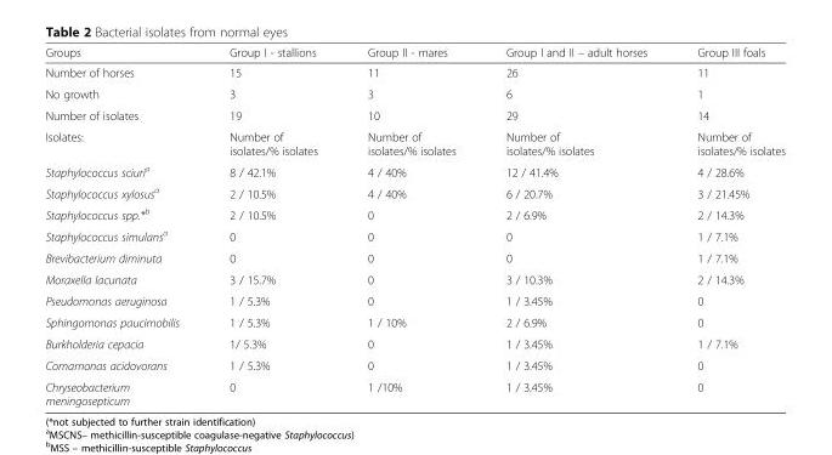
<table><thead><tr><td>Groups</td><td>Group I - stallions</td><td>Group II - mares</td><td>Group I and II – adult horses</td><td>Group III foals</td></tr></thead><tbody><tr><td>Number of horses</td><td>15</td><td>11</td><td>26</td><td>11</td></tr><tr><td>No growth</td><td>3</td><td>3</td><td>6</td><td>1</td></tr><tr><td>Number of isolates</td><td>19</td><td>10</td><td>29</td><td>14</td></tr><tr><td>Isolates:</td><td>Number of isolates/% isolates</td><td>Number of isolates/% isolates</td><td>Number of isolates/% isolates</td><td>Number of isolates/% isolates</td></tr><tr><td>Staphylococcus sciuri<sup>a</sup></td><td>8 / 42.1%</td><td>4 / 40%</td><td>12 / 41.4%</td><td>4 / 28.6%</td></tr><tr><td>Staphylococcus xylosus<sup>a</sup></td><td>2 / 10.5%</td><td>4 / 40%</td><td>6 / 20.7%</td><td>3 / 21.45%</td></tr><tr><td>Staphylococcus spp.*<sup>b</sup></td><td>2 / 10.5%</td><td>0</td><td>2 / 6.9%</td><td>2 / 14.3%</td></tr><tr><td>Staphylococcus simulans<sup>a</sup></td><td>0</td><td>0</td><td>0</td><td>1 / 7.1%</td></tr><tr><td>Brevibacterium diminuta</td><td>0</td><td>0</td><td>0</td><td>1 / 7.1%</td></tr><tr><td>Moraxella lacunata</td><td>3 / 15.7%</td><td>0</td><td>3 / 10.3%</td><td>2 / 14.3%</td></tr><tr><td>Pseudomonas aeruginosa</td><td>1 / 5.3%</td><td>0</td><td>1 / 3.45%</td><td>0</td></tr><tr><td>Sphingomonas paucimobilis</td><td>1 / 5.3%</td><td>1 / 10%</td><td>2 / 6.9%</td><td>0</td></tr><tr><td>Burkholderia cepacia</td><td>1/ 5.3%</td><td>0</td><td>1 / 3.45%</td><td>1 / 7.1%</td></tr><tr><td>Comamonas acidovorans</td><td>1 / 5.3%</td><td>0</td><td>1 / 3.45%</td><td>0</td></tr><tr><td>Chryseobacterium meningosepticum</td><td>0</td><td>1 /10%</td><td>1 / 3.45%</td><td>0</td></tr></tbody></table>